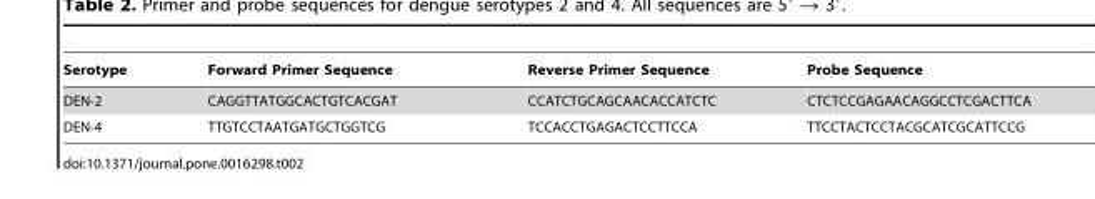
<table><thead><tr><td>Serotype</td><td>Forward Primer Sequence</td><td>Reverse Primer Sequence</td><td>Probe Sequence</td></tr></thead><tbody><tr><td>DEN-2</td><td>CAGGTTATGGCACTGTCACGAT</td><td>CCATCTGCAGCAACACCATCTC</td><td>CTCTCCGAGAACAGGCCTCGACTTCA</td></tr><tr><td>DEN-4</td><td>TTGTCCTAATGATGCTGGTCG</td><td>TCCACCTGAGACTCCTTCCA</td><td>TTCCTACTCCTACGCATCGCATTCCG</td></tr></tbody></table>